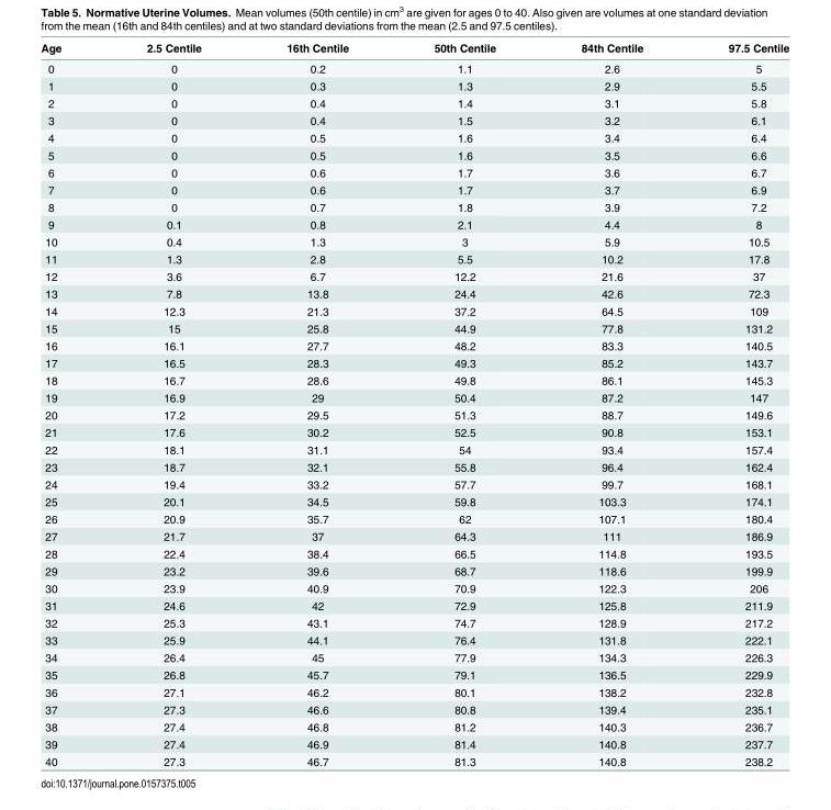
<table><thead><tr><td>Age</td><td>2.5 Centile</td><td>16th Centile</td><td>50th Centile</td><td>84th Centile</td><td>97.5 Centile</td></tr></thead><tbody><tr><td>0</td><td>0</td><td>0.2</td><td>1.1</td><td>2.6</td><td>5</td></tr><tr><td>1</td><td>0</td><td>0.3</td><td>1.3</td><td>2.9</td><td>5.5</td></tr><tr><td>2</td><td>0</td><td>0.4</td><td>1.4</td><td>3.1</td><td>5.8</td></tr><tr><td>3</td><td>0</td><td>0.4</td><td>1.5</td><td>3.2</td><td>6.1</td></tr><tr><td>4</td><td>0</td><td>0.5</td><td>1.6</td><td>3.4</td><td>6.4</td></tr><tr><td>5</td><td>0</td><td>0.5</td><td>1.6</td><td>3.5</td><td>6.6</td></tr><tr><td>6</td><td>0</td><td>0.6</td><td>1.7</td><td>3.6</td><td>6.7</td></tr><tr><td>7</td><td>0</td><td>0.6</td><td>1.7</td><td>3.7</td><td>6.9</td></tr><tr><td>8</td><td>0</td><td>0.7</td><td>1.8</td><td>3.9</td><td>7.2</td></tr><tr><td>9</td><td>0.1</td><td>0.8</td><td>2.1</td><td>4.4</td><td>8</td></tr><tr><td>10</td><td>0.4</td><td>1.3</td><td>3</td><td>5.9</td><td>10.5</td></tr><tr><td>11</td><td>1.3</td><td>2.8</td><td>5.5</td><td>10.2</td><td>17.8</td></tr><tr><td>12</td><td>3.6</td><td>6.7</td><td>12.2</td><td>21.6</td><td>37</td></tr><tr><td>13</td><td>7.8</td><td>13.8</td><td>24.4</td><td>42.6</td><td>72.3</td></tr><tr><td>14</td><td>12.3</td><td>21.3</td><td>37.2</td><td>64.5</td><td>109</td></tr><tr><td>15</td><td>15</td><td>25.8</td><td>44.9</td><td>77.8</td><td>131.2</td></tr><tr><td>16</td><td>16.1</td><td>27.7</td><td>48.2</td><td>83.3</td><td>140.5</td></tr><tr><td>17</td><td>16.5</td><td>28.3</td><td>49.3</td><td>85.2</td><td>143.7</td></tr><tr><td>18</td><td>16.7</td><td>28.6</td><td>49.8</td><td>86.1</td><td>145.3</td></tr><tr><td>19</td><td>16.9</td><td>29</td><td>50.4</td><td>87.2</td><td>147</td></tr><tr><td>20</td><td>17.2</td><td>29.5</td><td>51.3</td><td>88.7</td><td>149.6</td></tr><tr><td>21</td><td>17.6</td><td>30.2</td><td>52.5</td><td>90.8</td><td>153.1</td></tr><tr><td>22</td><td>18.1</td><td>31.1</td><td>54</td><td>93.4</td><td>157.4</td></tr><tr><td>23</td><td>18.7</td><td>32.1</td><td>55.8</td><td>96.4</td><td>162.4</td></tr><tr><td>24</td><td>19.4</td><td>33.2</td><td>57.7</td><td>99.7</td><td>168.1</td></tr><tr><td>25</td><td>20.1</td><td>34.5</td><td>59.8</td><td>103.3</td><td>174.1</td></tr><tr><td>26</td><td>20.9</td><td>35.7</td><td>62</td><td>107.1</td><td>180.4</td></tr><tr><td>27</td><td>21.7</td><td>37</td><td>64.3</td><td>111</td><td>186.9</td></tr><tr><td>28</td><td>22.4</td><td>38.4</td><td>66.5</td><td>114.8</td><td>193.5</td></tr><tr><td>29</td><td>23.2</td><td>39.6</td><td>68.7</td><td>118.6</td><td>199.9</td></tr><tr><td>30</td><td>23.9</td><td>40.9</td><td>70.9</td><td>122.3</td><td>206</td></tr><tr><td>31</td><td>24.6</td><td>42</td><td>72.9</td><td>125.8</td><td>211.9</td></tr><tr><td>32</td><td>25.3</td><td>43.1</td><td>74.7</td><td>128.9</td><td>217.2</td></tr><tr><td>33</td><td>25.9</td><td>44.1</td><td>76.4</td><td>131.8</td><td>222.1</td></tr><tr><td>34</td><td>26.4</td><td>45</td><td>77.9</td><td>134.3</td><td>226.3</td></tr><tr><td>35</td><td>26.8</td><td>45.7</td><td>79.1</td><td>136.5</td><td>229.9</td></tr><tr><td>36</td><td>27.1</td><td>46.2</td><td>80.1</td><td>138.2</td><td>232.8</td></tr><tr><td>37</td><td>27.3</td><td>46.6</td><td>80.8</td><td>139.4</td><td>235.1</td></tr><tr><td>38</td><td>27.4</td><td>46.8</td><td>81.2</td><td>140.3</td><td>236.7</td></tr><tr><td>39</td><td>27.4</td><td>46.9</td><td>81.4</td><td>140.8</td><td>237.7</td></tr><tr><td>40</td><td>27.3</td><td>46.7</td><td>81.3</td><td>140.8</td><td>238.2</td></tr></tbody></table>